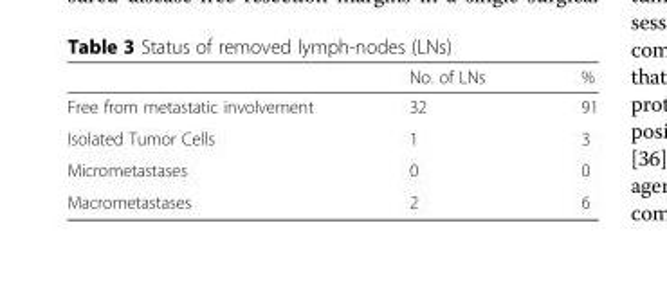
<table><thead><tr><td></td><td>No. of LNs</td><td>%</td></tr></thead><tbody><tr><td>Free from metastatic involvement</td><td>32</td><td>91</td></tr><tr><td>Isolated Tumor Cells</td><td>1</td><td>3</td></tr><tr><td>Micrometastases</td><td>0</td><td>0</td></tr><tr><td>Macrometastases</td><td>2</td><td>6</td></tr></tbody></table>